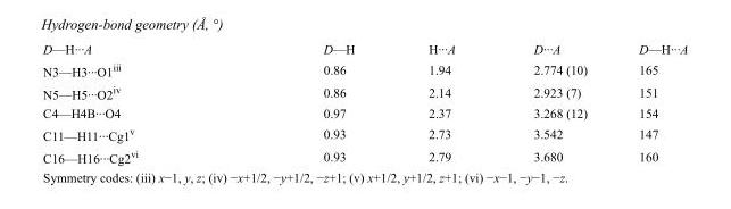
<table><tbody><tr><td>D—H···A</td><td>D—H</td><td>H···A</td><td>D···A</td><td>D—H···A</td></tr><tr><td>N3—H3···O1<sup>iii</sup></td><td>0.86</td><td>1.94</td><td>2.774 (10)</td><td>165</td></tr><tr><td>N5—H5···O2<sup>iv</sup></td><td>0.86</td><td>2.14</td><td>2.923 (7)</td><td>151</td></tr><tr><td>C4—H4B···O4</td><td>0.97</td><td>2.37</td><td>3.268 (12)</td><td>154</td></tr><tr><td>C11—H11···Cg1<sup>v</sup></td><td>0.93</td><td>2.73</td><td>3.542</td><td>147</td></tr><tr><td>C16—H16···Cg2<sup>vi</sup></td><td>0.93</td><td>2.79</td><td>3.680</td><td>160</td></tr></tbody></table>